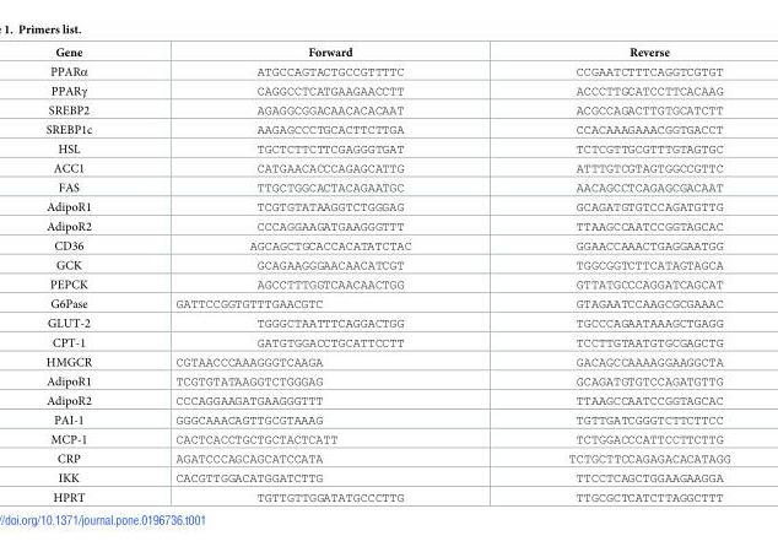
<table><thead><tr><td>Gene</td><td>Forward</td><td>Reverse</td></tr></thead><tbody><tr><td>PPARα</td><td>ATGCCAGTACTGCCGTTTTC</td><td>CCGAATCTTTCAGGTCGTGT</td></tr><tr><td>PPARγ</td><td>CAGGCCTCATGAAGAACCTT</td><td>ACCCTTGCATCCTTCACAAG</td></tr><tr><td>SREBP2</td><td>AGAGGCGGACAACACACAAT</td><td>ACGCCAGACTTGTGCATCTT</td></tr><tr><td>SREBP1c</td><td>AAGAGCCCTGCACTTCTTGA</td><td>CCACAAAGAAACGGTGACCT</td></tr><tr><td>HSL</td><td>TGCTCTTCTTCGAGGGTGAT</td><td>TCTCGTTGCGTTTGTAGTGC</td></tr><tr><td>ACC1</td><td>CATGAACACCCAGAGCATTG</td><td>ATTTGTCGTAGTGGCCGTTC</td></tr><tr><td>FAS</td><td>TTGCTGGCACTACAGAATGC</td><td>AACAGCCTCAGAGCGACAAT</td></tr><tr><td>AdipoR1</td><td>TCGTGTATAAGGTCTGGGAG</td><td>GCAGATGTGTCCAGATGTTG</td></tr><tr><td>AdipoR2</td><td>CCCAGGAAGATGAAGGGTTT</td><td>TTAAGCCAATCCGGTAGCAC</td></tr><tr><td>CD36</td><td>AGCAGCTGCACCACATATCTAC</td><td>GGAACCAAACTGAGGAATGG</td></tr><tr><td>GCK</td><td>GCAGAAGGGAACAACATCGT</td><td>TGGCGGTCTTCATAGTAGCA</td></tr><tr><td>PEPCK</td><td>AGCCTTTGGTCAACAACTGG</td><td>GTTATGCCCAGGATCAGCAT</td></tr><tr><td>G6Pase</td><td>GATTCCGGTGTTTGAACGTC</td><td>GTAGAATCCAAGCGCGAAAC</td></tr><tr><td>GLUT-2</td><td>TGGGCTAATTTCAGGACTGG</td><td>TGCCCAGAATAAAGCTGAGG</td></tr><tr><td>CPT-1</td><td>GATGTGGACCTGCATTCCTT</td><td>TCCTTGTAATGTGCGAGCTG</td></tr><tr><td>HMGCR</td><td>CGTAACCCAAAGGGTCAAGA</td><td>GACAGCCAAAAGGAAGGCTA</td></tr><tr><td>AdipoR1</td><td>TCGTGTATAAGGTCTGGGAG</td><td>GCAGATGTGTCCAGATGTTG</td></tr><tr><td>AdipoR2</td><td>CCCAGGAAGATGAAGGGTTT</td><td>TTAAGCCAATCCGGTAGCAC</td></tr><tr><td>PAI-1</td><td>GGGCAAACAGTTGCGTAAAG</td><td>TGTTGATCGGGTCTTCTTCC</td></tr><tr><td>MCP-1</td><td>CACTCACCTGCTGCTACTCATT</td><td>TCTGGACCCATTCCTTCTTG</td></tr><tr><td>CRP</td><td>AGATCCCAGCAGCATCCATA</td><td>TCTGCTTCCAGAGACACATAGG</td></tr><tr><td>IKK</td><td>CACGTTGGACATGGATCTTG</td><td>TTCCTCAGCTGGAAGAAGGA</td></tr><tr><td>HPRT</td><td>TGTTGTTGGATATGCCCTTG</td><td>TTGCGCTCATCTTAGGCTTT</td></tr></tbody></table>